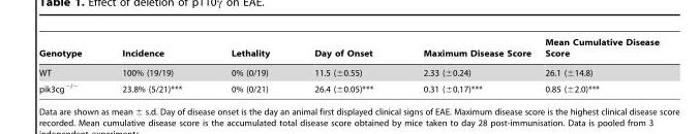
<table><thead><tr><td>Genotype</td><td>Incidence</td><td>Lethality</td><td>Day of Onset</td><td>Maximum Disease Score</td><td>Mean Cumulative Disease Score</td></tr></thead><tbody><tr><td>WT</td><td>100% (19/19)</td><td>0% (0/19)</td><td>11.5 (±0.55)</td><td>2.33 (±0.24)</td><td>26.1 (±14.8)</td></tr><tr><td>pik3cg<sup>−/−</sup></td><td>23.8% (5/21)***</td><td>0% (0/21)</td><td>26.4 (±0.05)***</td><td>0.31 (±0.17)***</td><td>0.85 (±2.0)***</td></tr></tbody></table>